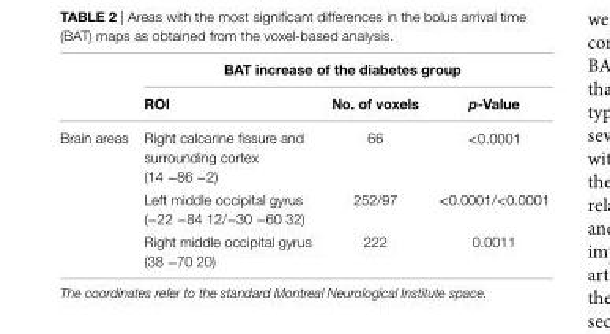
<table><thead><tr><td rowspan="2"></td><td colspan="3">BaT increase of the diabetes group</td></tr><tr><td>rOi</td><td>no. of voxels</td><td>p-Value</td></tr></thead><tbody><tr><td rowspan="6">Brain areas</td><td>Right calcarine fissure and surrounding cortex</td><td rowspan="2">66</td><td rowspan="2">&lt;0.0001</td></tr><tr><td>(14 −86 −2)</td></tr><tr><td>Left middle occipital gyrus</td><td rowspan="2">252/97</td><td rowspan="2">&lt;0.0001/&lt;0.0001</td></tr><tr><td>(−22 −84 12/−30 −60 32)</td></tr><tr><td>Right middle occipital gyrus</td><td rowspan="2">222</td><td rowspan="2">0.0011</td></tr><tr><td>(38 −70 20)</td></tr></tbody></table>